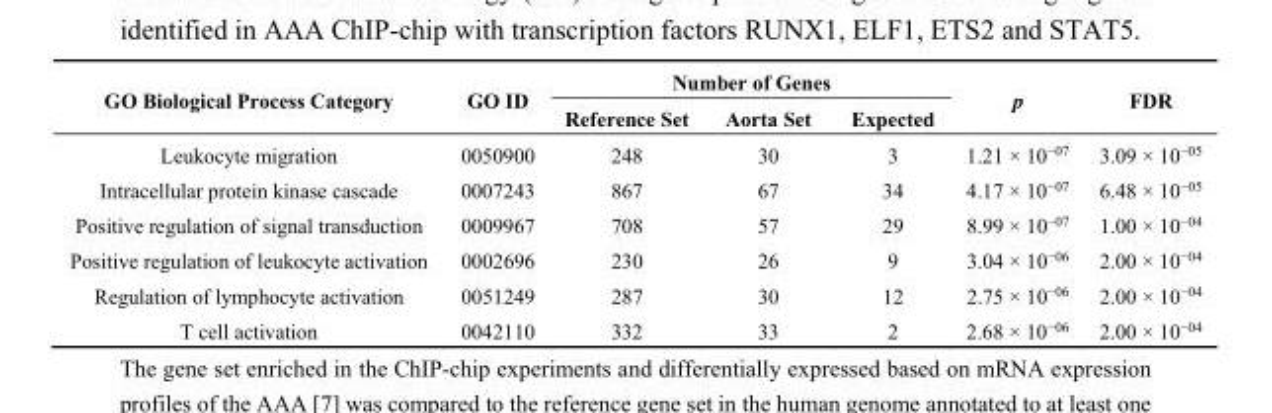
<table><thead><tr><td rowspan="2">GO Biological Process Category</td><td rowspan="2">GO ID</td><td colspan="3">Number of Genes</td><td rowspan="2">p</td><td rowspan="2">FDR</td></tr><tr><td>Reference Set</td><td>Aorta Set</td><td>Expected</td></tr></thead><tbody><tr><td>Leukocyte migration</td><td>0050900</td><td>248</td><td>30</td><td>3</td><td>1.21 × 10<sup>−07</sup></td><td>3.09 × 10<sup>−05</sup></td></tr><tr><td>Intracellular protein kinase cascade</td><td>0007243</td><td>867</td><td>67</td><td>34</td><td>4.17 × 10<sup>−07</sup></td><td>6.48 × 10<sup>−05</sup></td></tr><tr><td>Positive regulation of signal transduction</td><td>0009967</td><td>708</td><td>57</td><td>29</td><td>8.99 × 10<sup>−07</sup></td><td>1.00 × 10<sup>−04</sup></td></tr><tr><td>Positive regulation of leukocyte activation</td><td>0002696</td><td>230</td><td>26</td><td>9</td><td>3.04 × 10<sup>−06</sup></td><td>2.00 × 10<sup>−04</sup></td></tr><tr><td>Regulation of lymphocyte activation</td><td>0051249</td><td>287</td><td>30</td><td>12</td><td>2.75 × 10<sup>−06</sup></td><td>2.00 × 10<sup>−04</sup></td></tr><tr><td>T cell activation</td><td>0042110</td><td>332</td><td>33</td><td>2</td><td>2.68 × 10<sup>−06</sup></td><td>2.00 × 10<sup>−04</sup></td></tr></tbody></table>